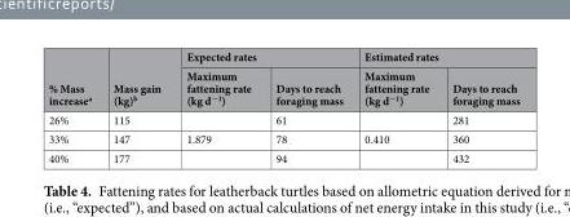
<table><thead><tr><td rowspan="2">% Mass increase<sup>a</sup></td><td rowspan="2">Mass gain (kg)<sup>b</sup></td><td colspan="2">Expected rates</td><td colspan="2">Estimated rates</td></tr><tr><td>Maximum fattening rate (kg d<sup>−1</sup>)</td><td>Days to reach foraging mass</td><td>Maximum fattening rate (kg d<sup>−1</sup>)</td><td>Days to reach foraging mass</td></tr></thead><tbody><tr><td>26%</td><td>115</td><td></td><td>61</td><td></td><td>281</td></tr><tr><td>33%</td><td>147</td><td>1.879</td><td>78</td><td>0.410</td><td>360</td></tr><tr><td>40%</td><td>177</td><td></td><td>94</td><td></td><td>432</td></tr></tbody></table>